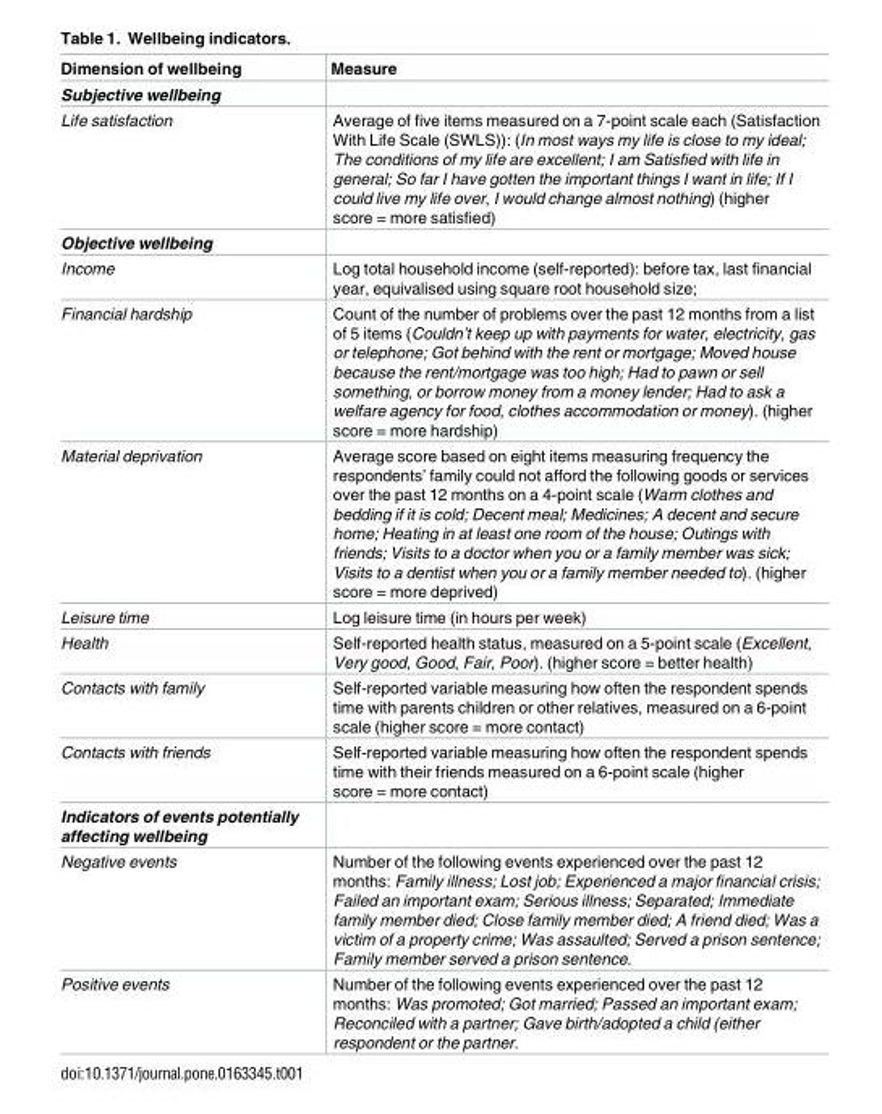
<table><thead><tr><td>Dimension of wellbeing</td><td>Measure</td></tr></thead><tbody><tr><td colspan="2">Subjective wellbeing</td></tr><tr><td>Life satisfaction</td><td>Average of five items measured on a 7-point scale each (Satisfaction With Life Scale (SWLS)): (In most ways my life is close to my ideal; The conditions of my life are excellent; I am Satisfied with life in general; So far I have gotten the important things I want in life; If I could live my life over, I would change almost nothing) (higher score = more satisfied)</td></tr><tr><td colspan="2">Objective wellbeing</td></tr><tr><td>Income</td><td>Log total household income (self-reported): before tax, last financial year, equivalised using square root household size;</td></tr><tr><td>Financial hardship</td><td>Count of the number of problems over the past 12 months from a list of 5 items (Couldn’t keep up with payments for water, electricity, gas or telephone; Got behind with the rent or mortgage; Moved house because the rent/mortgage was too high; Had to pawn or sell something, or borrow money from a money lender; Had to ask a welfare agency for food, clothes accommodation or money). (higher score = more hardship)</td></tr><tr><td>Material deprivation</td><td>Average score based on eight items measuring frequency the respondents’ family could not afford the following goods or services over the past 12 months on a 4-point scale (Warm clothes and bedding if it is cold; Decent meal; Medicines; A decent and secure home; Heating in at least one room of the house; Outings with friends; Visits to a doctor when you or a family member was sick; Visits to a dentist when you or a family member needed to). (higher score = more deprived)</td></tr><tr><td>Leisure time</td><td>Log leisure time (in hours per week)</td></tr><tr><td>Health</td><td>Self-reported health status, measured on a 5-point scale (Excellent, Very good, Good, Fair, Poor). (higher score = better health)</td></tr><tr><td>Contacts with family</td><td>Self-reported variable measuring how often the respondent spends time with parents children or other relatives, measured on a 6-point scale (higher score = more contact)</td></tr><tr><td>Contacts with friends</td><td>Self-reported variable measuring how often the respondent spends time with their friends measured on a 6-point scale (higher score = more contact)</td></tr><tr><td colspan="2">Indicators of events potentially affecting wellbeing</td></tr><tr><td>Negative events</td><td>Number of the following events experienced over the past 12 months: Family illness; Lost job; Experienced a major financial crisis; Failed an important exam; Serious illness; Separated; Immediate family member died; Close family member died; A friend died; Was a victim of a property crime; Was assaulted; Served a prison sentence; Family member served a prison sentence.</td></tr><tr><td>Positive events</td><td>Number of the following events experienced over the past 12 months: Was promoted; Got married; Passed an important exam; Reconciled with a partner; Gave birth/adopted a child (either respondent or the partner.</td></tr></tbody></table>